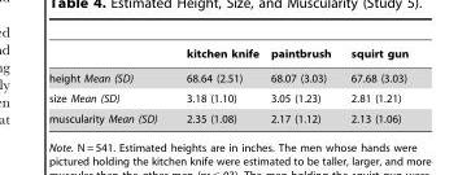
<table><thead><tr><td></td><td>kitchen knife</td><td>paintbrush</td><td>squirt gun</td></tr></thead><tbody><tr><td>height Mean (SD)</td><td>68.64 (2.51)</td><td>68.07 (3.03)</td><td>67.68 (3.03)</td></tr><tr><td>size Mean (SD)</td><td>3.18 (1.10)</td><td>3.05 (1.23)</td><td>2.81 (1.21)</td></tr><tr><td>muscularity Mean (SD)</td><td>2.35 (1.08)</td><td>2.17 (1.12)</td><td>2.13 (1.06)</td></tr></tbody></table>